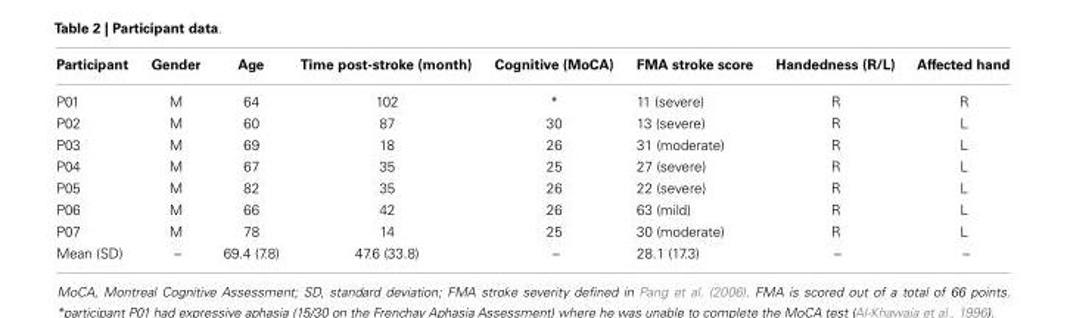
<table><thead><tr><td>Participant</td><td>Gender</td><td>Age</td><td>Time post-stroke (month)</td><td>Cognitive (MoCA)</td><td>FMA stroke score</td><td>Handedness (R/L)</td><td>Affected hand</td></tr></thead><tbody><tr><td>P01</td><td>M</td><td>64</td><td>102</td><td>*</td><td>11 (severe)</td><td>R</td><td>R</td></tr><tr><td>P02</td><td>M</td><td>60</td><td>87</td><td>30</td><td>13 (severe)</td><td>R</td><td>L</td></tr><tr><td>P03</td><td>M</td><td>69</td><td>18</td><td>26</td><td>31 (moderate)</td><td>R</td><td>L</td></tr><tr><td>P04</td><td>M</td><td>67</td><td>35</td><td>25</td><td>27 (severe)</td><td>R</td><td>L</td></tr><tr><td>P05</td><td>M</td><td>82</td><td>35</td><td>26</td><td>22 (severe)</td><td>R</td><td>L</td></tr><tr><td>P06</td><td>M</td><td>66</td><td>42</td><td>26</td><td>63 (mild)</td><td>R</td><td>L</td></tr><tr><td>P07</td><td>M</td><td>78</td><td>14</td><td>25</td><td>30 (moderate)</td><td>R</td><td>L</td></tr><tr><td>Mean (SD)</td><td>–</td><td>69.4 (7.8)</td><td>47.6 (33.8)</td><td>–</td><td>28.1 (17.3)</td><td>–</td><td>–</td></tr></tbody></table>